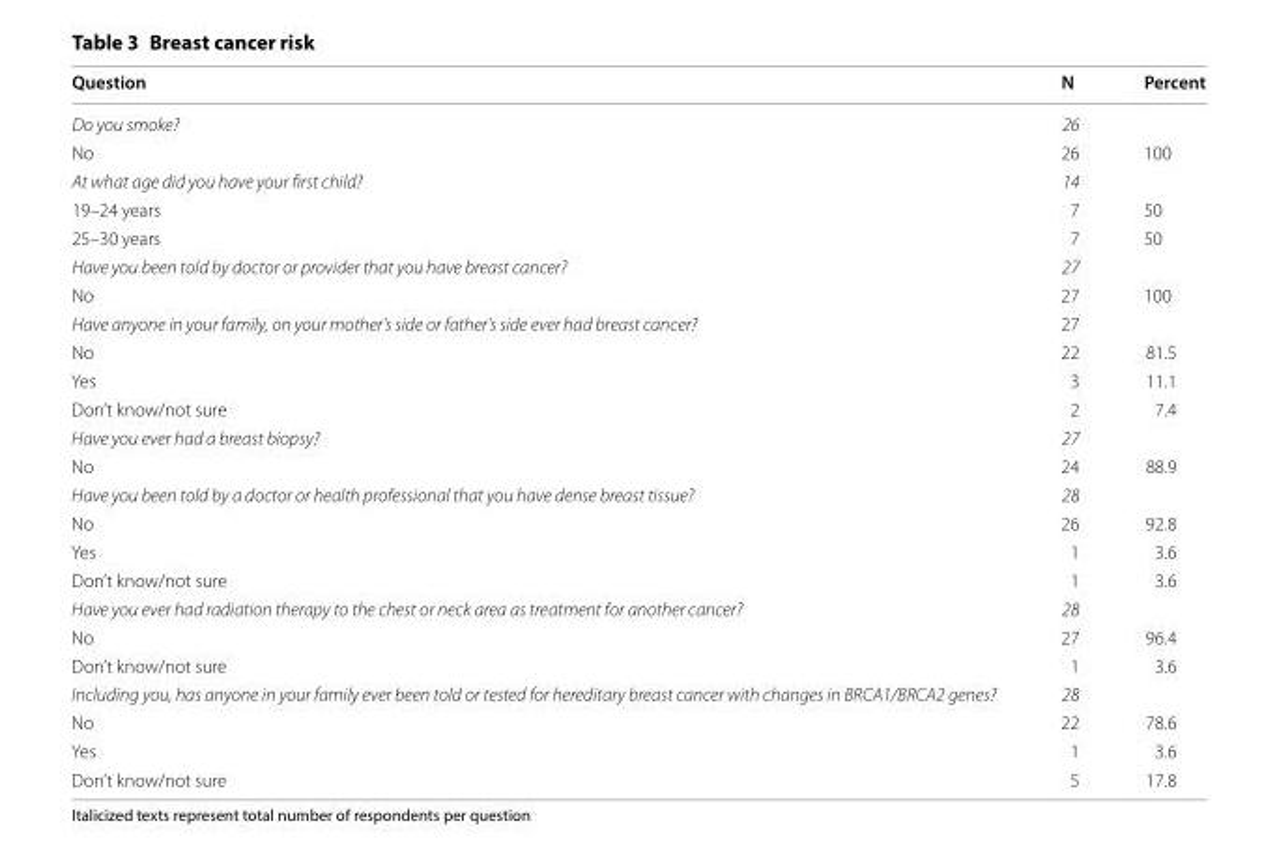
<table><thead><tr><td>Question</td><td>N</td><td>Percent</td></tr></thead><tbody><tr><td>Do you smoke?</td><td>26</td><td></td></tr><tr><td>No</td><td>26</td><td>100</td></tr><tr><td>At what age did you have your first child?</td><td>14</td><td></td></tr><tr><td>19–24 years</td><td>7</td><td>50</td></tr><tr><td>25–30 years</td><td>7</td><td>50</td></tr><tr><td>Have you been told by doctor or provider that you have breast cancer?</td><td>27</td><td></td></tr><tr><td>No</td><td>27</td><td>100</td></tr><tr><td>Have anyone in your family, on your mother’s side or father’s side ever had breast cancer?</td><td>27</td><td></td></tr><tr><td>No</td><td>22</td><td>81.5</td></tr><tr><td>Yes</td><td>3</td><td>11.1</td></tr><tr><td>Don’t know/not sure</td><td>2</td><td>7.4</td></tr><tr><td>Have you ever had a breast biopsy?</td><td>27</td><td></td></tr><tr><td>No</td><td>24</td><td>88.9</td></tr><tr><td>Have you been told by a doctor or health professional that you have dense breast tissue?</td><td>28</td><td></td></tr><tr><td>No</td><td>26</td><td>92.8</td></tr><tr><td>Yes</td><td>1</td><td>3.6</td></tr><tr><td>Don’t know/not sure</td><td>1</td><td>3.6</td></tr><tr><td>Have you ever had radiation therapy to the chest or neck area as treatment for another cancer?</td><td>28</td><td></td></tr><tr><td>No</td><td>27</td><td>96.4</td></tr><tr><td>Don’t know/not sure</td><td>1</td><td>3.6</td></tr><tr><td>Including you, has anyone in your family ever been told or tested for hereditary breast cancer with changes in BRCA1/BRCA2 genes?</td><td>28</td><td></td></tr><tr><td>No</td><td>22</td><td>78.6</td></tr><tr><td>Yes</td><td>1</td><td>3.6</td></tr><tr><td>Don’t know/not sure</td><td>5</td><td>17.8</td></tr></tbody></table>